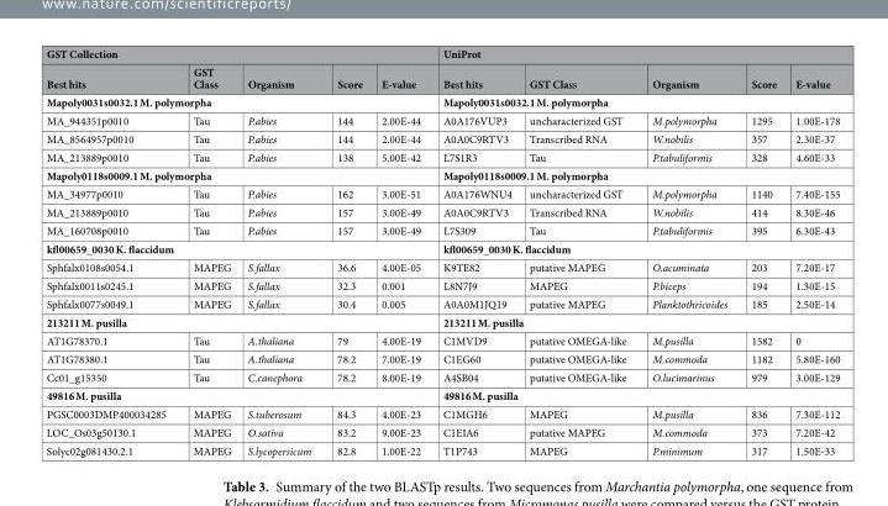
<table><thead><tr><td colspan="5">GST Collection</td><td colspan="5">UniProt</td></tr><tr><td>Best hits</td><td>GST Class</td><td>Organism</td><td>Score</td><td>E-value</td><td>Best hits</td><td>GST Class</td><td>Organism</td><td>Score</td><td>E-value</td></tr></thead><tbody><tr><td colspan="5">Mapoly0031s0032.1 M. polymorpha</td><td colspan="5">Mapoly0031s0032.1 M. polymorpha</td></tr><tr><td>MA_944351p0010</td><td>Tau</td><td>P.abies</td><td>144</td><td>2.00E-44</td><td>A0A176VUP3</td><td>uncharacterized GST</td><td>M.polymorpha</td><td>1295</td><td>1.00E-178</td></tr><tr><td>MA_8564957p0010</td><td>Tau</td><td>P.abies</td><td>144</td><td>2.00E-44</td><td>A0A0C9RTV3</td><td>Transcribed RNA</td><td>W.nobilis</td><td>357</td><td>2.30E-37</td></tr><tr><td>MA_213889p0010</td><td>Tau</td><td>P.abies</td><td>138</td><td>5.00E-42</td><td>L7S1R3</td><td>Tau</td><td>P.tabuliformis</td><td>328</td><td>4.60E-33</td></tr><tr><td colspan="5">Mapoly0118s0009.1 M. polymorpha</td><td colspan="5">Mapoly0118s0009.1 M. polymorpha</td></tr><tr><td>MA_34977p0010</td><td>Tau</td><td>P.abies</td><td>162</td><td>3.00E-51</td><td>A0A176WNU4</td><td>uncharacterized GST</td><td>M.polymorpha</td><td>1140</td><td>7.40E-155</td></tr><tr><td>MA_213889p0010</td><td>Tau</td><td>P.abies</td><td>157</td><td>3.00E-49</td><td>A0A0C9RTV3</td><td>Transcribed RNA</td><td>W.nobilis</td><td>414</td><td>8.30E-46</td></tr><tr><td>MA_160708p0010</td><td>Tau</td><td>P.abies</td><td>157</td><td>3.00E-49</td><td>L7S309</td><td>Tau</td><td>P.tabuliformis</td><td>395</td><td>6.30E-43</td></tr><tr><td colspan="5">kfl00659_0030 K. flaccidum</td><td colspan="5">kfl00659_0030 K. flaccidum</td></tr><tr><td>Sphfalx0108s0054.1</td><td>MAPEG</td><td>S.fallax</td><td>36.6</td><td>4.00E-05</td><td>K9TE82</td><td>putative MAPEG</td><td>O.acuminata</td><td>203</td><td>7.20E-17</td></tr><tr><td>Sphfalx0011s0245.1</td><td>MAPEG</td><td>S.fallax</td><td>32.3</td><td>0.001</td><td>L8N7J9</td><td>MAPEG</td><td>P.biceps</td><td>194</td><td>1.30E-15</td></tr><tr><td>Sphfalx0077s0049.1</td><td>MAPEG</td><td>S.fallax</td><td>30.4</td><td>0.005</td><td>A0A0M1JQ19</td><td>putative MAPEG</td><td>Planktothricoides</td><td>185</td><td>2.50E-14</td></tr><tr><td colspan="5">213211 M. pusilla</td><td colspan="5">213211 M. pusilla</td></tr><tr><td>AT1G78370.1</td><td>Tau</td><td>A.thaliana</td><td>79</td><td>4.00E-19</td><td>C1MVD9</td><td>putative OMEGA-like</td><td>M.pusilla</td><td>1582</td><td>0</td></tr><tr><td>AT1G78380.1</td><td>Tau</td><td>A.thaliana</td><td>78.2</td><td>7.00E-19</td><td>C1EG60</td><td>putative OMEGA-like</td><td>M.commoda</td><td>1182</td><td>5.80E-160</td></tr><tr><td>Cc01_g15350</td><td>Tau</td><td>C.canephora</td><td>78.2</td><td>8.00E-19</td><td>A4SB04</td><td>putative OMEGA-like</td><td>O.lucimarinus</td><td>979</td><td>3.00E-129</td></tr><tr><td colspan="5">49816 M. pusilla</td><td colspan="5">49816 M. pusilla</td></tr><tr><td>PGSC0003DMP400034285</td><td>MAPEG</td><td>S.tuberosum</td><td>84.3</td><td>4.00E-23</td><td>C1MGH6</td><td>MAPEG</td><td>M.pusilla</td><td>836</td><td>7.30E-112</td></tr><tr><td>LOC_Os03g50130.1</td><td>MAPEG</td><td>O.sativa</td><td>83.2</td><td>9.00E-23</td><td>C1EIA6</td><td>putative MAPEG</td><td>M.commoda</td><td>373</td><td>7.20E-42</td></tr><tr><td>Solyc02g081430.2.1</td><td>MAPEG</td><td>S.lycopersicum</td><td>82.8</td><td>1.00E-22</td><td>T1P743</td><td>MAPEG</td><td>P.minimum</td><td>317</td><td>1.50E-33</td></tr></tbody></table>